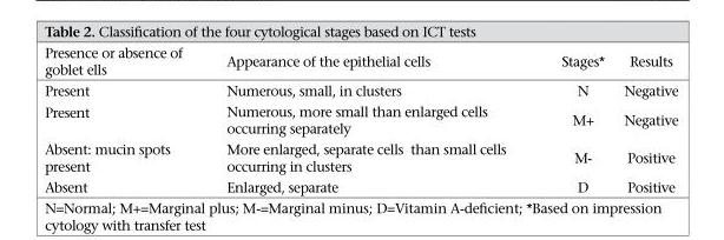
<table><thead><tr><td>Presence or absence of goblet ells</td><td>Appearance of the epithelial cells</td><td>Stages*</td><td>Results</td></tr></thead><tbody><tr><td>Present</td><td>Numerous, small, in clusters</td><td>N</td><td>Negative</td></tr><tr><td>Present</td><td>Numerous, more small than enlarged cells occurring separately</td><td>M+</td><td>Negative</td></tr><tr><td>Absent: mucin spots present</td><td>More enlarged, separate cells than small cells occurring in clusters</td><td>M-</td><td>Positive</td></tr><tr><td>Absent</td><td>Enlarged, separate</td><td>D</td><td>Positive</td></tr></tbody></table>